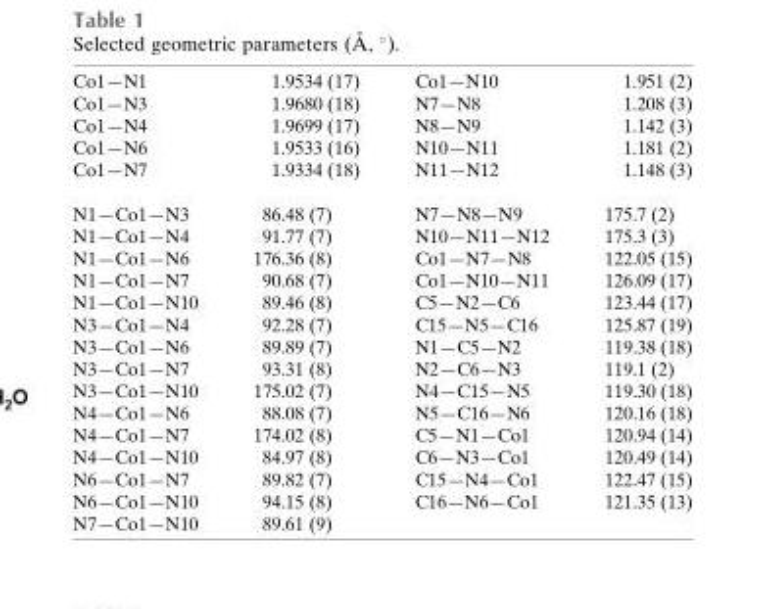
<table><tbody><tr><td>Co1—N1</td><td>1.9534 (17)</td><td>Co1—N10</td><td>1.951 (2)</td></tr><tr><td>Co1—N3</td><td>1.9680 (18)</td><td>N7—N8</td><td>1.208 (3)</td></tr><tr><td>Co1—N4</td><td>1.9699 (17)</td><td>N8—N9</td><td>1.142 (3)</td></tr><tr><td>Co1—N6</td><td>1.9533 (16)</td><td>N10—N11</td><td>1.181 (2)</td></tr><tr><td>Co1—N7</td><td>1.9334 (18)</td><td>N11—N12</td><td>1.148 (3)</td></tr><tr><td>N1—Co1—N3</td><td>86.48 (7)</td><td>N7—N8—N9</td><td>175.7 (2)</td></tr><tr><td>N1—Co1—N4</td><td>91.77 (7)</td><td>N10—N11—N12</td><td>175.3 (3)</td></tr><tr><td>N1—Co1—N6</td><td>176.36 (8)</td><td>Co1—N7—N8</td><td>122.05 (15)</td></tr><tr><td>N1—Co1—N7</td><td>90.68 (7)</td><td>Co1—N10—N11</td><td>126.09 (17)</td></tr><tr><td>N1—Co1—N10</td><td>89.46 (8)</td><td>C5—N2—C6</td><td>123.44 (17)</td></tr><tr><td>N3—Co1—N4</td><td>92.28 (7)</td><td>C15—N5—C16</td><td>125.87 (19)</td></tr><tr><td>N3—Co1—N6</td><td>89.89 (7)</td><td>N1—C5—N2</td><td>119.38 (18)</td></tr><tr><td>N3—Co1—N7</td><td>93.31 (8)</td><td>N2—C6—N3</td><td>119.1 (2)</td></tr><tr><td>N3—Co1—N10</td><td>175.02 (7)</td><td>N4—C15—N5</td><td>119.30 (18)</td></tr><tr><td>N4—Co1—N6</td><td>88.08 (7)</td><td>N5—C16—N6</td><td>120.16 (18)</td></tr><tr><td>N4—Co1—N7</td><td>174.02 (8)</td><td>C5—N1—Co1</td><td>120.94 (14)</td></tr><tr><td>N4—Co1—N10</td><td>84.97 (8)</td><td>C6—N3—Co1</td><td>120.49 (14)</td></tr><tr><td>N6—Co1—N7</td><td>89.82 (7)</td><td>C15—N4—Co1</td><td>122.47 (15)</td></tr><tr><td>N6—Co1—N10</td><td>94.15 (8)</td><td>C16—N6—Co1</td><td>121.35 (13)</td></tr><tr><td>N7—Co1—N10</td><td>89.61 (9)</td><td></td><td></td></tr></tbody></table>